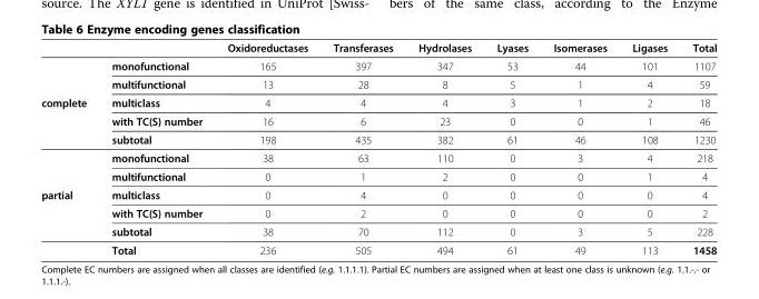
<table><thead><tr><td></td><td></td><td>Oxidoreductases</td><td>Transferases</td><td>Hydrolases</td><td>Lyases</td><td>Isomerases</td><td>Ligases</td><td>Total</td></tr></thead><tbody><tr><td></td><td>monofunctional</td><td>165</td><td>397</td><td>347</td><td>53</td><td>44</td><td>101</td><td>1107</td></tr><tr><td></td><td>multifunctional</td><td>13</td><td>28</td><td>8</td><td>5</td><td>1</td><td>4</td><td>59</td></tr><tr><td rowspan="5">complete</td><td>multiclass</td><td>4</td><td>4</td><td>4</td><td>3</td><td>1</td><td>2</td><td>18</td></tr><tr><td>with TC(S) number</td><td>16</td><td>6</td><td>23</td><td>0</td><td>0</td><td>1</td><td>46</td></tr><tr><td>subtotal</td><td>198</td><td>435</td><td>382</td><td>61</td><td>46</td><td>108</td><td>1230</td></tr><tr><td>monofunctional</td><td>38</td><td>63</td><td>110</td><td>0</td><td>3</td><td>4</td><td>218</td></tr><tr><td>multifunctional</td><td>0</td><td>1</td><td>2</td><td>0</td><td>0</td><td>1</td><td>4</td></tr><tr><td rowspan="4">partial</td><td>multiclass</td><td>0</td><td>4</td><td>0</td><td>0</td><td>0</td><td>0</td><td>4</td></tr><tr><td>with TC(S) number</td><td>0</td><td>2</td><td>0</td><td>0</td><td>0</td><td>0</td><td>2</td></tr><tr><td>subtotal</td><td>38</td><td>70</td><td>112</td><td>0</td><td>3</td><td>5</td><td>228</td></tr><tr><td>Total</td><td>236</td><td>505</td><td>494</td><td>61</td><td>49</td><td>113</td><td>1458</td></tr></tbody></table>